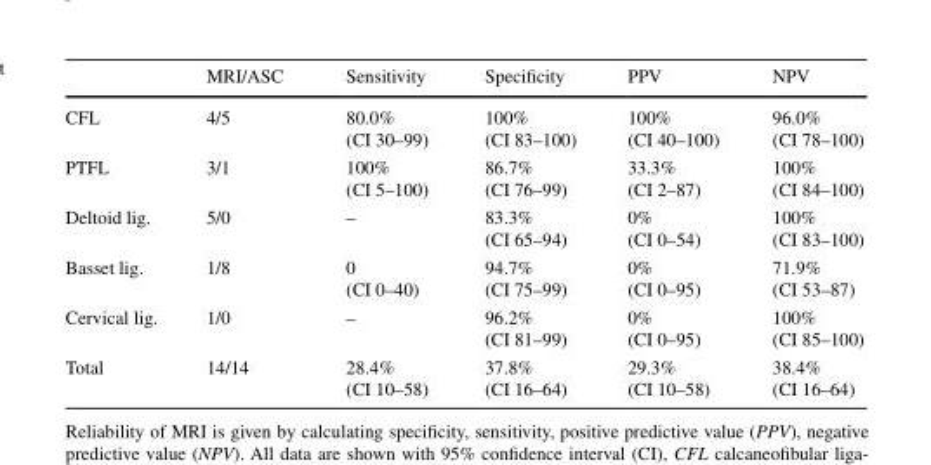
<table><thead><tr><td></td><td>MRI/ASC</td><td>Sensitivity</td><td>Specificity</td><td>PPV</td><td>NPV</td></tr></thead><tbody><tr><td>CFL</td><td>4/5</td><td>80.0% (CI 30–99)</td><td>100% (CI 83–100)</td><td>100% (CI 40–100)</td><td>96.0% (CI 78–100)</td></tr><tr><td>PTFL</td><td>3/1</td><td>100% (CI 5–100)</td><td>86.7% (CI 76–99)</td><td>33.3% (CI 2–87)</td><td>100% (CI 84–100)</td></tr><tr><td>Deltoid lig.</td><td>5/0</td><td>–</td><td>83.3% (CI 65–94)</td><td>0% (CI 0–54)</td><td>100% (CI 83–100)</td></tr><tr><td>Basset lig.</td><td>1/8</td><td>0 (CI 0–40)</td><td>94.7% (CI 75–99)</td><td>0% (CI 0–95)</td><td>71.9% (CI 53–87)</td></tr><tr><td>Cervical lig.</td><td>1/0</td><td>–</td><td>96.2% (CI 81–99)</td><td>0% (CI 0–95)</td><td>100% (CI 85–100)</td></tr><tr><td>Total</td><td>14/14</td><td>28.4% (CI 10–58)</td><td>37.8% (CI 16–64)</td><td>29.3% (CI 10–58)</td><td>38.4% (CI 16–64)</td></tr></tbody></table>